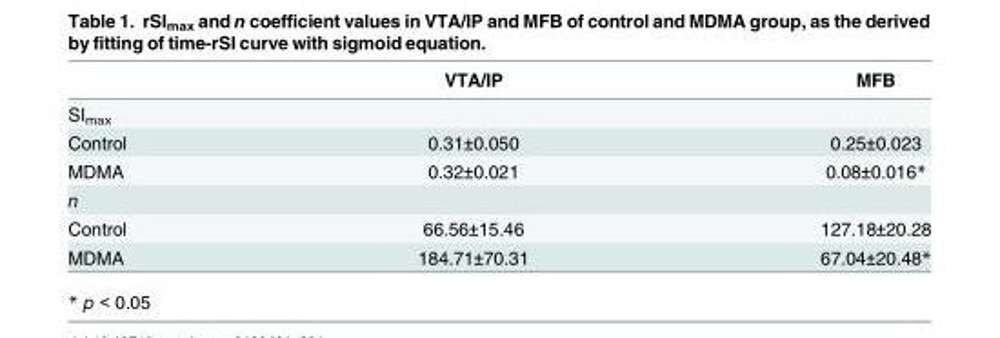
<table><thead><tr><td></td><td>VTA/IP</td><td>MFB</td></tr></thead><tbody><tr><td colspan="3">SI<sub>max</sub></td></tr><tr><td>Control</td><td>0.31±0.050</td><td>0.25±0.023</td></tr><tr><td>MDMA</td><td>0.32±0.021</td><td>0.08±0.016*</td></tr><tr><td colspan="3">n</td></tr><tr><td>Control</td><td>66.56±15.46</td><td>127.18±20.28</td></tr><tr><td>MDMA</td><td>184.71±70.31</td><td>67.04±20.48*</td></tr></tbody></table>